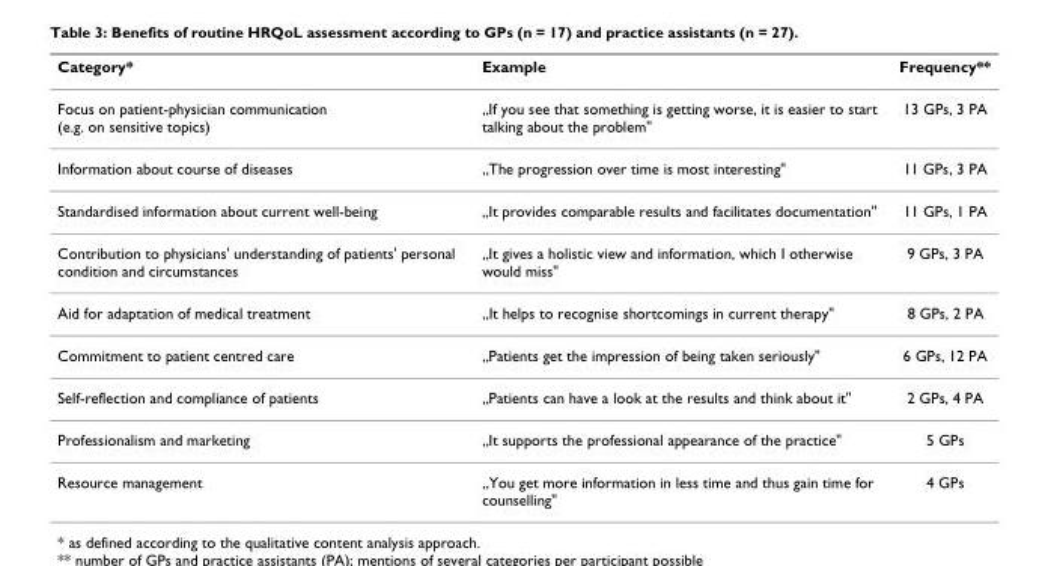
<table><thead><tr><td>Category*</td><td>Example</td><td>Frequency**</td></tr></thead><tbody><tr><td>Focus on patient-physician communication (e.g. on sensitive topics)</td><td>„If you see that something is getting worse, it is easier to start talking about the problem&quot;</td><td>13 GPs, 3 PA</td></tr><tr><td>Information about course of diseases</td><td>„The progression over time is most interesting&quot;</td><td>11 GPs, 3 PA</td></tr><tr><td>Standardised information about current well-being</td><td>„It provides comparable results and facilitates documentation&quot;</td><td>11 GPs, 1 PA</td></tr><tr><td>Contribution to physicians&#x27; understanding of patients&#x27; personal condition and circumstances</td><td>„It gives a holistic view and information, which I otherwise would miss&quot;</td><td>9 GPs, 3 PA</td></tr><tr><td>Aid for adaptation of medical treatment</td><td>„It helps to recognise shortcomings in current therapy&quot;</td><td>8 GPs, 2 PA</td></tr><tr><td>Commitment to patient centred care</td><td>„Patients get the impression of being taken seriously&quot;</td><td>6 GPs, 12 PA</td></tr><tr><td>Self-reflection and compliance of patients</td><td>„Patients can have a look at the results and think about it&quot;</td><td>2 GPs, 4 PA</td></tr><tr><td>Professionalism and marketing</td><td>„It supports the professional appearance of the practice&quot;</td><td>5 GPs</td></tr><tr><td>Resource management</td><td>„You get more information in less time and thus gain time for counselling&quot;</td><td>4 GPs</td></tr></tbody></table>